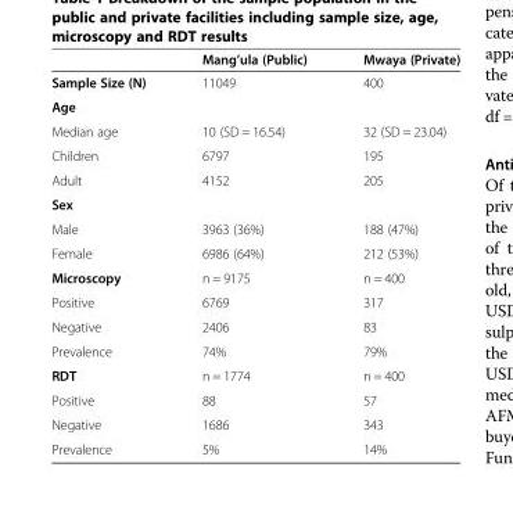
<table><thead><tr><td></td><td>Mang’ula (Public)</td><td>Mwaya (Private)</td></tr></thead><tbody><tr><td>Sample Size (N)</td><td>11049</td><td>400</td></tr><tr><td colspan="3">Age</td></tr><tr><td>Median age</td><td>10 (SD = 16.54)</td><td>32 (SD = 23.04)</td></tr><tr><td>Children</td><td>6797</td><td>195</td></tr><tr><td>Adult</td><td>4152</td><td>205</td></tr><tr><td colspan="3">Sex</td></tr><tr><td>Male</td><td>3963 (36%)</td><td>188 (47%)</td></tr><tr><td>Female</td><td>6986 (64%)</td><td>212 (53%)</td></tr><tr><td>Microscopy</td><td>n = 9175</td><td>n = 400</td></tr><tr><td>Positive</td><td>6769</td><td>317</td></tr><tr><td>Negative</td><td>2406</td><td>83</td></tr><tr><td>Prevalence</td><td>74%</td><td>79%</td></tr><tr><td>RDT</td><td>n = 1774</td><td>n = 400</td></tr><tr><td>Positive</td><td>88</td><td>57</td></tr><tr><td>Negative</td><td>1686</td><td>343</td></tr><tr><td>Prevalence</td><td>5%</td><td>14%</td></tr></tbody></table>